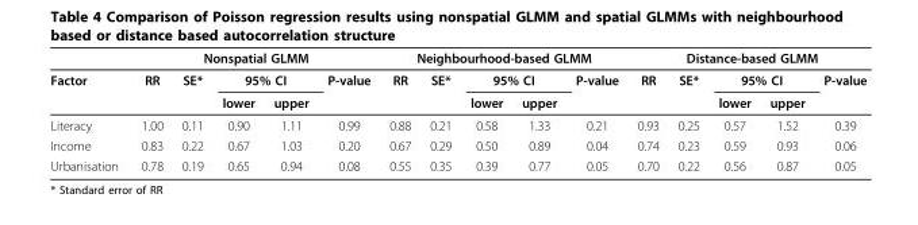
<table><thead><tr><td rowspan="3">Factor</td><td colspan="5">Nonspatial GLMM</td><td colspan="5">Neighbourhood-based GLMM</td><td colspan="5">Distance-based GLMM</td></tr><tr><td rowspan="2">RR</td><td rowspan="2">SE*</td><td colspan="2">95% CI</td><td rowspan="2">P-value</td><td rowspan="2">RR</td><td rowspan="2">SE*</td><td colspan="2">95% CI</td><td rowspan="2">P-value</td><td rowspan="2">RR</td><td rowspan="2">SE*</td><td colspan="2">95% CI</td><td rowspan="2">P-value</td></tr><tr><td>lower</td><td>upper</td><td>lower</td><td>upper</td><td>lower</td><td>upper</td></tr></thead><tbody><tr><td>Literacy</td><td>1.00</td><td>0.11</td><td>0.90</td><td>1.11</td><td>0.99</td><td>0.88</td><td>0.21</td><td>0.58</td><td>1.33</td><td>0.21</td><td>0.93</td><td>0.25</td><td>0.57</td><td>1.52</td><td>0.39</td></tr><tr><td>Income</td><td>0.83</td><td>0.22</td><td>0.67</td><td>1.03</td><td>0.20</td><td>0.67</td><td>0.29</td><td>0.50</td><td>0.89</td><td>0.04</td><td>0.74</td><td>0.23</td><td>0.59</td><td>0.93</td><td>0.06</td></tr><tr><td>Urbanisation</td><td>0.78</td><td>0.19</td><td>0.65</td><td>0.94</td><td>0.08</td><td>0.55</td><td>0.35</td><td>0.39</td><td>0.77</td><td>0.05</td><td>0.70</td><td>0.22</td><td>0.56</td><td>0.87</td><td>0.05</td></tr></tbody></table>